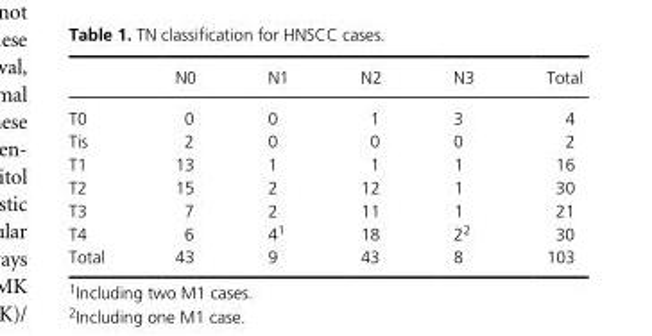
<table><thead><tr><td></td><td>N0</td><td>N1</td><td>N2</td><td>N3</td><td>Total</td></tr></thead><tbody><tr><td>T0</td><td>0</td><td>0</td><td>1</td><td>3</td><td>4</td></tr><tr><td>Tis</td><td>2</td><td>0</td><td>0</td><td>0</td><td>2</td></tr><tr><td>T1</td><td>13</td><td>1</td><td>1</td><td>1</td><td>16</td></tr><tr><td>T2</td><td>15</td><td>2</td><td>12</td><td>1</td><td>30</td></tr><tr><td>T3</td><td>7</td><td>2</td><td>11</td><td>1</td><td>21</td></tr><tr><td>T4</td><td>6</td><td>41</td><td>18</td><td>22</td><td>30</td></tr><tr><td>Total</td><td>43</td><td>9</td><td>43</td><td>8</td><td>103</td></tr></tbody></table>